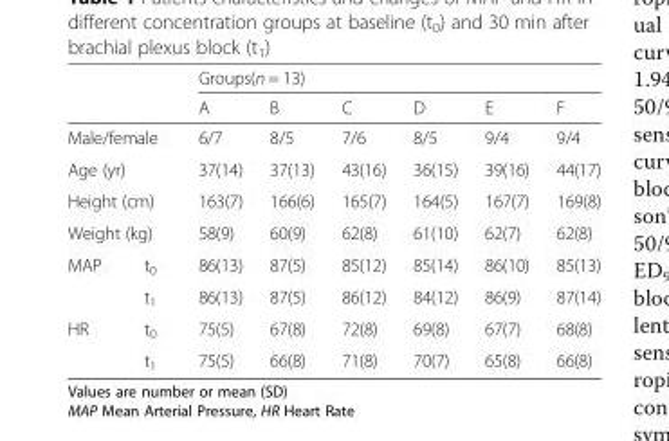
<table><thead><tr><td rowspan="2"></td><td rowspan="2"></td><td colspan="6">Groups(n = 13)</td></tr><tr><td>A</td><td>B</td><td>C</td><td>D</td><td>E</td><td>F</td></tr></thead><tbody><tr><td colspan="2">Male/female</td><td>6/7</td><td>8/5</td><td>7/6</td><td>8/5</td><td>9/4</td><td>9/4</td></tr><tr><td colspan="2">Age (yr)</td><td>37(14)</td><td>37(13)</td><td>43(16)</td><td>36(15)</td><td>39(16)</td><td>44(17)</td></tr><tr><td colspan="2">Height (cm)</td><td>163(7)</td><td>166(6)</td><td>165(7)</td><td>164(5)</td><td>167(7)</td><td>169(8)</td></tr><tr><td colspan="2">Weight (kg)</td><td>58(9)</td><td>60(9)</td><td>62(8)</td><td>61(10)</td><td>62(7)</td><td>62(8)</td></tr><tr><td rowspan="2">MAP</td><td>t<sub>0</sub></td><td>86(13)</td><td>87(5)</td><td>85(12)</td><td>85(14)</td><td>86(10)</td><td>85(13)</td></tr><tr><td>t<sub>1</sub></td><td>86(13)</td><td>87(5)</td><td>86(12)</td><td>84(12)</td><td>86(9)</td><td>87(14)</td></tr><tr><td rowspan="2">HR</td><td>t<sub>0</sub></td><td>75(5)</td><td>67(8)</td><td>72(8)</td><td>69(8)</td><td>67(7)</td><td>68(8)</td></tr><tr><td>t<sub>1</sub></td><td>75(5)</td><td>66(8)</td><td>71(8)</td><td>70(7)</td><td>65(8)</td><td>66(8)</td></tr></tbody></table>